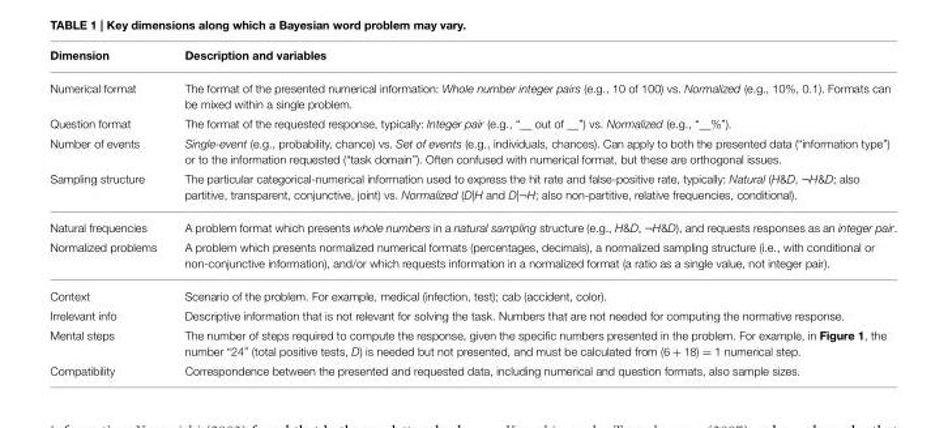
<table><thead><tr><td>Dimension</td><td>Description and variables</td></tr></thead><tbody><tr><td>Numerical format</td><td>The format of the presented numerical information: Whole number integer pairs (e.g., 10 of 100) vs. Normalized (e.g., 10%, 0.1). Formats can be mixed within a single problem.</td></tr><tr><td>Question format</td><td>The format of the requested response, typically: Integer pair (e.g., “__ out of __”) vs. Normalized (e.g., “__%”).</td></tr><tr><td>Number of events</td><td>Single-event (e.g., probability, chance) vs. Set of events (e.g., individuals, chances). Can apply to both the presented data (“information type”) or to the information requested (“task domain”). Often confused with numerical format, but these are orthogonal issues.</td></tr><tr><td>Sampling structure</td><td>The particular categorical-numerical information used to express the hit rate and false-positive rate, typically: Natural (H&amp;D, ¬H&amp;D; also partitive, transparent, conjunctive, joint) vs. Normalized (D|H and D|¬H; also non-partitive, relative frequencies, conditional).</td></tr><tr><td>Natural frequencies</td><td>A problem format which presents whole numbers in a natural sampling structure (e.g., H&amp;D, ¬H&amp;D), and requests responses as an integer pair.</td></tr><tr><td>Normalized problems</td><td>A problem which presents normalized numerical formats (percentages, decimals), a normalized sampling structure (i.e., with conditional or non-conjunctive information), and/or which requests information in a normalized format (a ratio as a single value, not integer pair).</td></tr><tr><td>Context</td><td>Scenario of the problem. For example, medical (infection, test); cab (accident, color).</td></tr><tr><td>Irrelevant info</td><td>Descriptive information that is not relevant for solving the task. Numbers that are not needed for computing the normative response.</td></tr><tr><td>Mental steps</td><td>The number of steps required to compute the response, given the specific numbers presented in the problem. For example, in Figure 1, the number “24” (total positive tests, D) is needed but not presented, and must be calculated from (6 + 18) = 1 numerical step.</td></tr><tr><td>Compatibility</td><td>Correspondence between the presented and requested data, including numerical and question formats, also sample sizes.</td></tr></tbody></table>